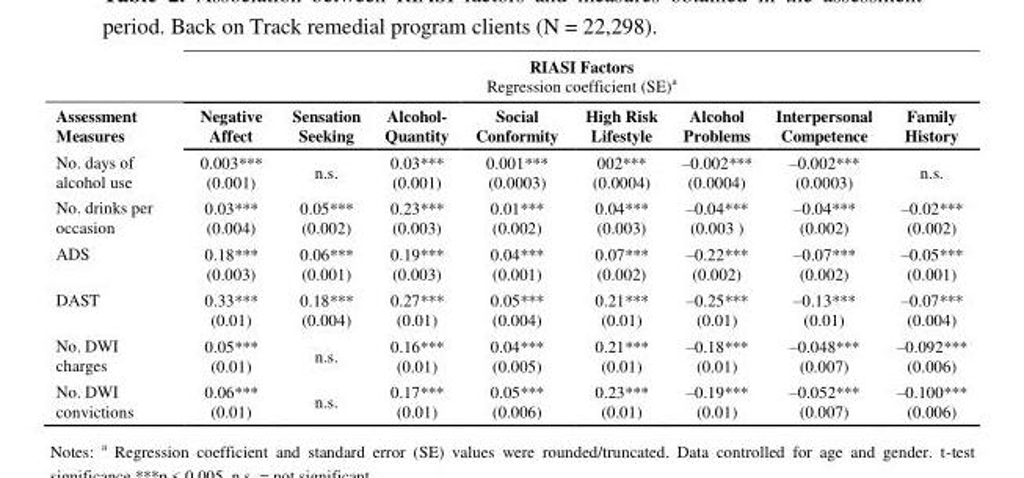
<table><thead><tr><td rowspan="2">Assessment Measures</td><td colspan="8">RIASI Factors Regression coefficient (SE)<sup>a</sup></td></tr><tr><td>Negative Affect</td><td>Sensation Seeking</td><td>Alcohol- Quantity</td><td>Social Conformity</td><td>High Risk Lifestyle</td><td>Alcohol Problems</td><td>Interpersonal Competence</td><td>Family History</td></tr></thead><tbody><tr><td>No. days of alcohol use</td><td>0.003*** (0.001)</td><td>n.s.</td><td>0.03*** (0.001)</td><td>0.001*** (0.0003)</td><td>002*** (0.0004)</td><td>–0.002*** (0.0004)</td><td>–0.002*** (0.0003)</td><td>n.s.</td></tr><tr><td>No. drinks per occasion</td><td>0.03*** (0.004)</td><td>0.05*** (0.002)</td><td>0.23*** (0.003)</td><td>0.01*** (0.002)</td><td>0.04*** (0.003)</td><td>–0.04*** (0.003 )</td><td>–0.04*** (0.002)</td><td>–0.02*** (0.002)</td></tr><tr><td>ADS</td><td>0.18*** (0.003)</td><td>0.06*** (0.001)</td><td>0.19*** (0.003)</td><td>0.04*** (0.001)</td><td>0.07*** (0.002)</td><td>–0.22*** (0.002)</td><td>–0.07*** (0.002)</td><td>–0.05*** (0.001)</td></tr><tr><td>DAST</td><td>0.33*** (0.01)</td><td>0.18*** (0.004)</td><td>0.27*** (0.01)</td><td>0.05*** (0.004)</td><td>0.21*** (0.01)</td><td>–0.25*** (0.01)</td><td>–0.13*** (0.01)</td><td>–0.07*** (0.004)</td></tr><tr><td>No. DWI charges</td><td>0.05*** (0.01)</td><td>n.s.</td><td>0.16*** (0.01)</td><td>0.04*** (0.005)</td><td>0.21*** (0.01)</td><td>–0.18*** (0.01)</td><td>–0.048*** (0.007)</td><td>–0.092*** (0.006)</td></tr><tr><td>No. DWI convictions</td><td>0.06*** (0.01)</td><td>n.s.</td><td>0.17*** (0.01)</td><td>0.05*** (0.006)</td><td>0.23*** (0.01)</td><td>–0.19*** (0.01)</td><td>–0.052*** (0.007)</td><td>–0.100*** (0.006)</td></tr></tbody></table>